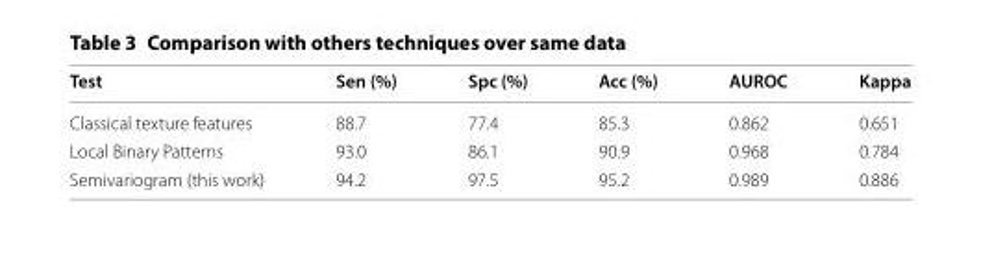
<table><thead><tr><td>Test</td><td>Sen (%)</td><td>Spc (%)</td><td>Acc (%)</td><td>AUROC</td><td>Kappa</td></tr></thead><tbody><tr><td>Classical texture features</td><td>88.7</td><td>77.4</td><td>85.3</td><td>0.862</td><td>0.651</td></tr><tr><td>Local Binary Patterns</td><td>93.0</td><td>86.1</td><td>90.9</td><td>0.968</td><td>0.784</td></tr><tr><td>Semivariogram (this work)</td><td>94.2</td><td>97.5</td><td>95.2</td><td>0.989</td><td>0.886</td></tr></tbody></table>